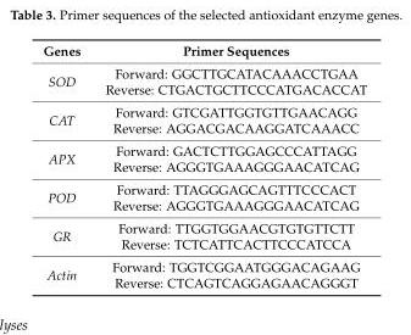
<table><thead><tr><td>Genes</td><td>Primer Sequences</td></tr></thead><tbody><tr><td>SOD</td><td>Forward: GGCTTGCATACAAACCTGAA Reverse: CTGACTGCTTCCCATGACACCAT</td></tr><tr><td>CAT</td><td>Forward: GTCGATTGGTGTTGAACAGG Reverse: AGGACGACAAGGATCAAACC</td></tr><tr><td>APX</td><td>Forward: GACTCTTGGAGCCCATTAGG Reverse: AGGGTGAAAGGGAACATCAG</td></tr><tr><td>POD</td><td>Forward: TTAGGGAGCAGTTTCCCACT Reverse: AGGGTGAAAGGGAACATCAG</td></tr><tr><td>GR</td><td>Forward: TTGGTGGAACGTGTGTTCTT Reverse: TCTCATTCACTTCCCATCCA</td></tr><tr><td>Actin</td><td>Forward: TGGTCGGAATGGGACAGAAG Reverse: CTCAGTCAGGAGAACAGGGT</td></tr></tbody></table>